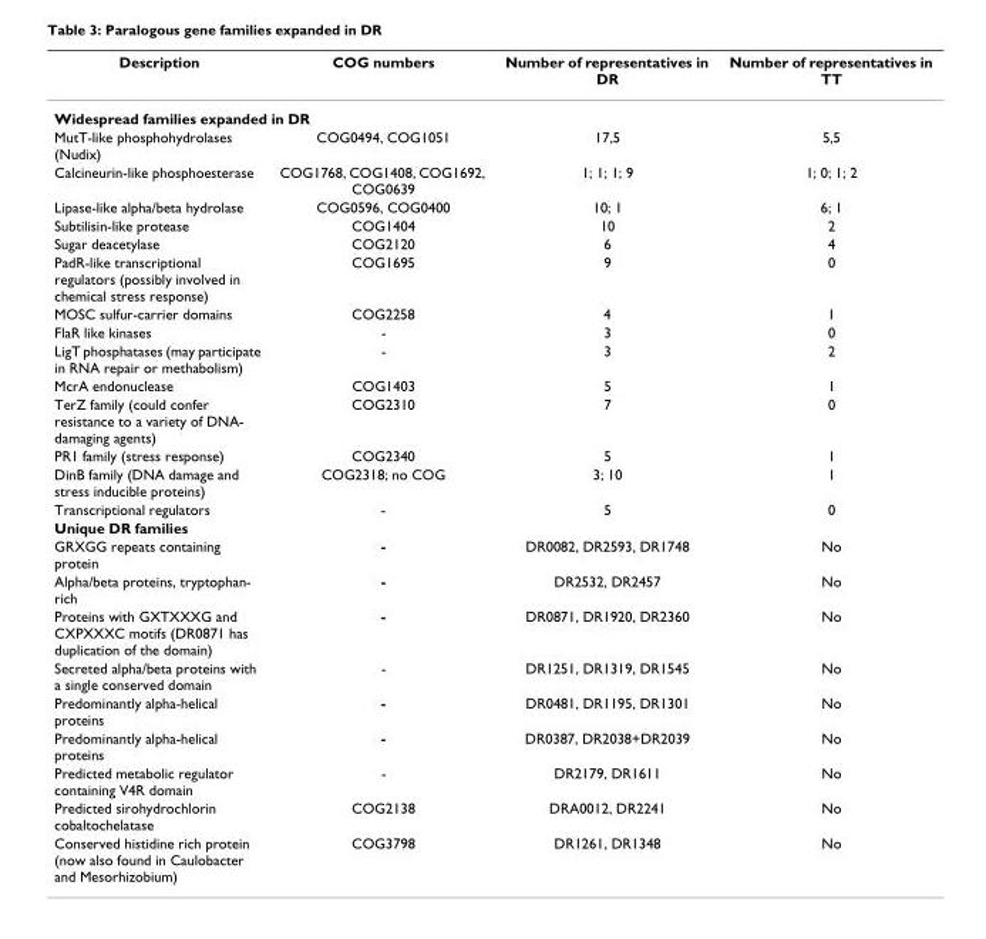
<table><thead><tr><td>Description</td><td>COG numbers</td><td>Number of representatives in DR</td><td>Number of representatives in TT</td></tr></thead><tbody><tr><td colspan="4">Widespread families expanded in DR</td></tr><tr><td>MutT-like phosphohydrolases (Nudix)</td><td>COG0494, COG1051</td><td>17,5</td><td>5,5</td></tr><tr><td>Calcineurin-like phosphoesterase</td><td>COG1768, COG1408, COG1692, COG0639</td><td>1; 1; 1; 9</td><td>1; 0; 1; 2</td></tr><tr><td>Lipase-like alpha/beta hydrolase</td><td>COG0596, COG0400</td><td>10; 1</td><td>6; 1</td></tr><tr><td>Subtilisin-like protease</td><td>COG1404</td><td>10</td><td>2</td></tr><tr><td>Sugar deacetylase</td><td>COG2120</td><td>6</td><td>4</td></tr><tr><td>PadR-like transcriptional regulators (possibly involved in chemical stress response)</td><td>COG1695</td><td>9</td><td>0</td></tr><tr><td>MOSC sulfur-carrier domains</td><td>COG2258</td><td>4</td><td>1</td></tr><tr><td>FlaR like kinases</td><td>-</td><td>3</td><td>0</td></tr><tr><td>LigT phosphatases (may participate in RNA repair or methabolism)</td><td>-</td><td>3</td><td>2</td></tr><tr><td>McrA endonuclease</td><td>COG1403</td><td>5</td><td>1</td></tr><tr><td>TerZ family (could confer resistance to a variety of DNA- damaging agents)</td><td>COG2310</td><td>7</td><td>0</td></tr><tr><td>PR1 family (stress response)</td><td>COG2340</td><td>5</td><td>1</td></tr><tr><td>DinB family (DNA damage and stress inducible proteins)</td><td>COG2318; no COG</td><td>3; 10</td><td>1</td></tr><tr><td>Transcriptional regulators</td><td>-</td><td>5</td><td>0</td></tr><tr><td colspan="4">Unique DR families</td></tr><tr><td>GRXGG repeats containing protein</td><td>-</td><td>DR0082, DR2593, DR1748</td><td>No</td></tr><tr><td>Alpha/beta proteins, tryptophan- rich</td><td>-</td><td>DR2532, DR2457</td><td>No</td></tr><tr><td>Proteins with GXTXXXG and CXPXXXC motifs (DR0871 has duplication of the domain)</td><td>-</td><td>DR0871, DR1920, DR2360</td><td>No</td></tr><tr><td>Secreted alpha/beta proteins with a single conserved domain</td><td>-</td><td>DR1251, DR1319, DR1545</td><td>No</td></tr><tr><td>Predominantly alpha-helical proteins</td><td>-</td><td>DR0481, DR1195, DR1301</td><td>No</td></tr><tr><td>Predominantly alpha-helical proteins</td><td>-</td><td>DR0387, DR2038+DR2039</td><td>No</td></tr><tr><td>Predicted metabolic regulator containing V4R domain</td><td>-</td><td>DR2179, DR1611</td><td>No</td></tr><tr><td>Predicted sirohydrochlorin cobaltochelatase</td><td>COG2138</td><td>DRA0012, DR2241</td><td>No</td></tr><tr><td>Conserved histidine rich protein (now also found in Caulobacter and Mesorhizobium)</td><td>COG3798</td><td>DR1261, DR1348</td><td>No</td></tr></tbody></table>